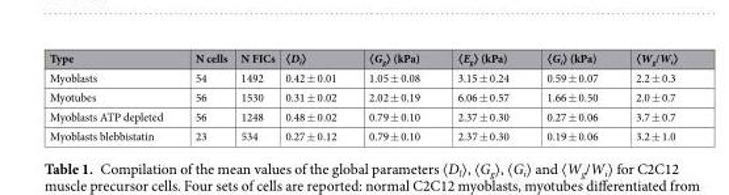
<table><thead><tr><td>Type</td><td>N cells</td><td>N FICs</td><td>〈D<sub>l</sub>〉</td><td>〈G<sub>g</sub>〉 (kPa)</td><td>〈E<sub>g</sub>〉 (kPa)</td><td>〈G<sub>i</sub>〉 (kPa)</td><td>〈W<sub>g</sub>/W<sub>i</sub>〉</td></tr></thead><tbody><tr><td>Myoblasts</td><td>54</td><td>1492</td><td>0.42 ± 0.01</td><td>1.05 ± 0.08</td><td>3.15 ± 0.24</td><td>0.59 ± 0.07</td><td>2.2 ± 0.3</td></tr><tr><td>Myotubes</td><td>56</td><td>1530</td><td>0.31 ± 0.02</td><td>2.02 ± 0.19</td><td>6.06 ± 0.57</td><td>1.66 ± 0.50</td><td>2.0 ± 0.7</td></tr><tr><td>Myoblasts ATP depleted</td><td>56</td><td>1248</td><td>0.48 ± 0.02</td><td>0.79 ± 0.10</td><td>2.37 ± 0.30</td><td>0.27 ± 0.06</td><td>3.7 ± 0.7</td></tr><tr><td>Myoblasts blebbistatin</td><td>23</td><td>534</td><td>0.27 ± 0.12</td><td>0.79 ± 0.10</td><td>2.37 ± 0.30</td><td>0.19 ± 0.06</td><td>3.2 ± 1.0</td></tr></tbody></table>